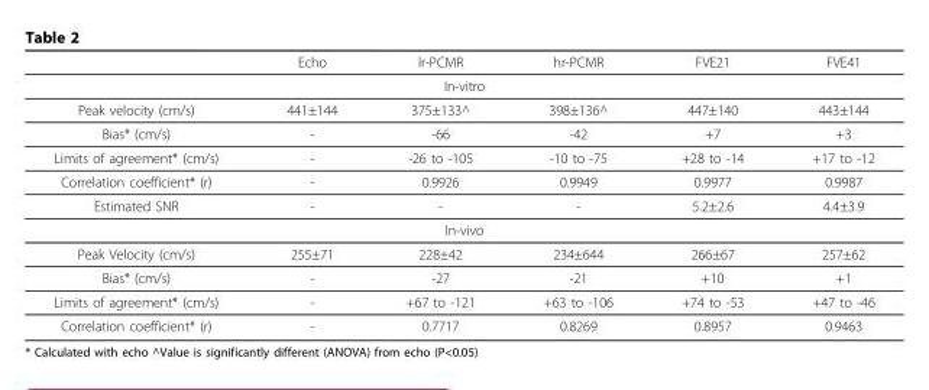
<table><thead><tr><td></td><td>Echo</td><td>lr-PCMR</td><td>hr-PCMR</td><td>FVE21</td><td>FVE41</td></tr></thead><tbody><tr><td colspan="6">In-vitro</td></tr><tr><td>Peak velocity (cm/s)</td><td>441±144</td><td>375±133^</td><td>398±136^</td><td>447±140</td><td>443±144</td></tr><tr><td>Bias* (cm/s)</td><td>-</td><td>-66</td><td>-42</td><td>+7</td><td>+3</td></tr><tr><td>Limits of agreement* (cm/s)</td><td>-</td><td>-26 to -105</td><td>-10 to -75</td><td>+28 to -14</td><td>+17 to -12</td></tr><tr><td>Correlation coefficient* (r)</td><td>-</td><td>0.9926</td><td>0.9949</td><td>0.9977</td><td>0.9987</td></tr><tr><td>Estimated SNR</td><td>-</td><td>-</td><td>-</td><td>5.2±2.6</td><td>4.4±3.9</td></tr><tr><td colspan="6">In-vivo</td></tr><tr><td>Peak Velocity (cm/s)</td><td>255±71</td><td>228±42</td><td>234±644</td><td>266±67</td><td>257±62</td></tr><tr><td>Bias* (cm/s)</td><td>-</td><td>-27</td><td>-21</td><td>+10</td><td>+1</td></tr><tr><td>Limits of agreement* (cm/s)</td><td>-</td><td>+67 to -121</td><td>+63 to -106</td><td>+74 to -53</td><td>+47 to -46</td></tr><tr><td>Correlation coefficient* (r)</td><td>-</td><td>0.7717</td><td>0.8269</td><td>0.8957</td><td>0.9463</td></tr></tbody></table>